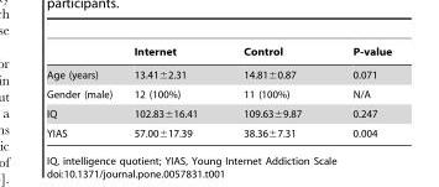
<table><thead><tr><td></td><td>Internet</td><td>Control</td><td>P-value</td></tr></thead><tbody><tr><td>Age (years)</td><td>13.41±2.31</td><td>14.81±0.87</td><td>0.071</td></tr><tr><td>Gender (male)</td><td>12 (100%)</td><td>11 (100%)</td><td>N/A</td></tr><tr><td>IQ</td><td>102.83±16.41</td><td>109.63±9.87</td><td>0.247</td></tr><tr><td>YIAS</td><td>57.00±17.39</td><td>38.36±7.31</td><td>0.004</td></tr></tbody></table>